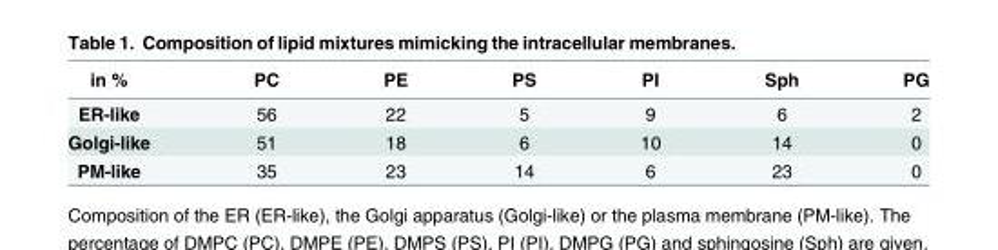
<table><thead><tr><td>in %</td><td>PC</td><td>PE</td><td>PS</td><td>PI</td><td>Sph</td><td>PG</td></tr></thead><tbody><tr><td>ER-like</td><td>56</td><td>22</td><td>5</td><td>9</td><td>6</td><td>2</td></tr><tr><td>Golgi-like</td><td>51</td><td>18</td><td>6</td><td>10</td><td>14</td><td>0</td></tr><tr><td>PM-like</td><td>35</td><td>23</td><td>14</td><td>6</td><td>23</td><td>0</td></tr></tbody></table>